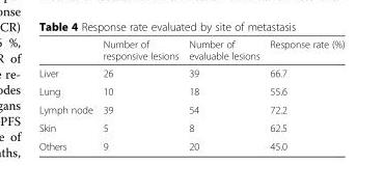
<table><thead><tr><td></td><td>Number of responsive lesions</td><td>Number of evaluable lesions</td><td>Response rate (%)</td></tr></thead><tbody><tr><td>Liver</td><td>26</td><td>39</td><td>66.7</td></tr><tr><td>Lung</td><td>10</td><td>18</td><td>55.6</td></tr><tr><td>Lymph node</td><td>39</td><td>54</td><td>72.2</td></tr><tr><td>Skin</td><td>5</td><td>8</td><td>62.5</td></tr><tr><td>Others</td><td>9</td><td>20</td><td>45.0</td></tr></tbody></table>